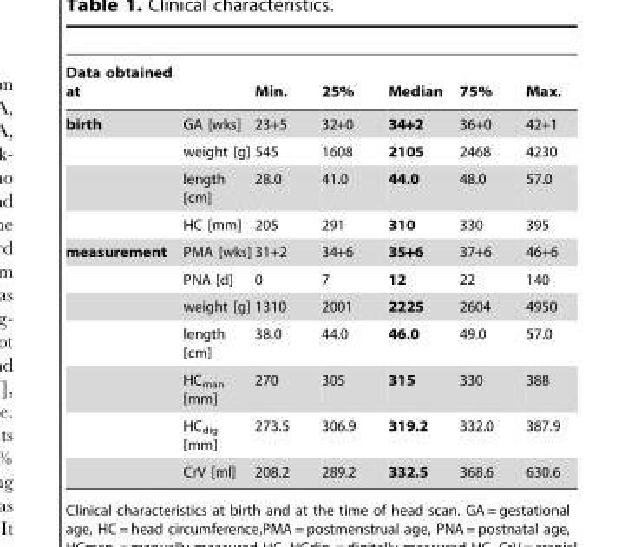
<table><thead><tr><td>Data obtained at</td><td></td><td>Min.</td><td>25%</td><td>Median</td><td>75%</td><td>Max.</td></tr></thead><tbody><tr><td rowspan="4">birth</td><td>GA [wks]</td><td>23+5</td><td>32+0</td><td>34+2</td><td>36+0</td><td>42+1</td></tr><tr><td>weight [g]</td><td>545</td><td>1608</td><td>2105</td><td>2468</td><td>4230</td></tr><tr><td>length [cm]</td><td>28.0</td><td>41.0</td><td>44.0</td><td>48.0</td><td>57.0</td></tr><tr><td>HC [mm]</td><td>205</td><td>291</td><td>310</td><td>330</td><td>395</td></tr><tr><td rowspan="7">measurement</td><td>PMA [wks]</td><td>31+2</td><td>34+6</td><td>35+6</td><td>37+6</td><td>46+6</td></tr><tr><td>PNA [d]</td><td>0</td><td>7</td><td>12</td><td>22</td><td>140</td></tr><tr><td>weight [g]</td><td>1310</td><td>2001</td><td>2225</td><td>2604</td><td>4950</td></tr><tr><td>length [cm]</td><td>38.0</td><td>44.0</td><td>46.0</td><td>49.0</td><td>57.0</td></tr><tr><td>HC<sub>man</sub> [mm]</td><td>270</td><td>305</td><td>315</td><td>330</td><td>388</td></tr><tr><td>HC<sub>dig</sub> [mm]</td><td>273.5</td><td>306.9</td><td>319.2</td><td>332.0</td><td>387.9</td></tr><tr><td>CrV [ml]</td><td>208.2</td><td>289.2</td><td>332.5</td><td>368.6</td><td>630.6</td></tr></tbody></table>